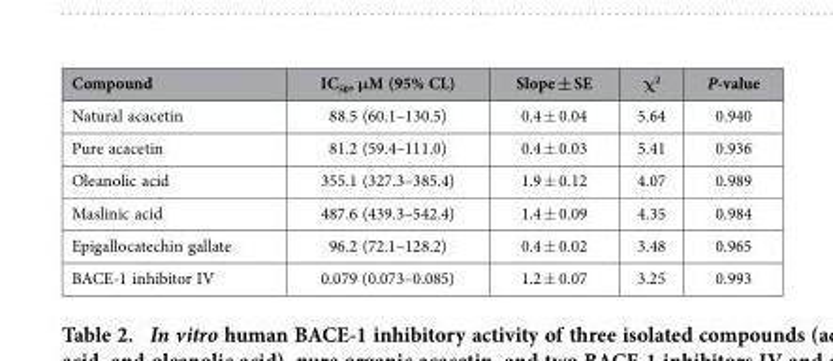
<table><thead><tr><td>Compound</td><td>IC<sub>50</sub>, μM (95% CL)</td><td>Slope ± SE</td><td>χ<sup>2</sup></td><td>P-value</td></tr></thead><tbody><tr><td>Natural acacetin</td><td>88.5 (60.1–130.5)</td><td>0.4 ± 0.04</td><td>5.64</td><td>0.940</td></tr><tr><td>Pure acacetin</td><td>81.2 (59.4–111.0)</td><td>0.4 ± 0.03</td><td>5.41</td><td>0.936</td></tr><tr><td>Oleanolic acid</td><td>355.1 (327.3–385.4)</td><td>1.9 ± 0.12</td><td>4.07</td><td>0.989</td></tr><tr><td>Maslinic acid</td><td>487.6 (439.3–542.4)</td><td>1.4 ± 0.09</td><td>4.35</td><td>0.984</td></tr><tr><td>Epigallocatechin gallate</td><td>96.2 (72.1–128.2)</td><td>0.4 ± 0.02</td><td>3.48</td><td>0.965</td></tr><tr><td>BACE-1 inhibitor IV</td><td>0.079 (0.073–0.085)</td><td>1.2 ± 0.07</td><td>3.25</td><td>0.993</td></tr></tbody></table>